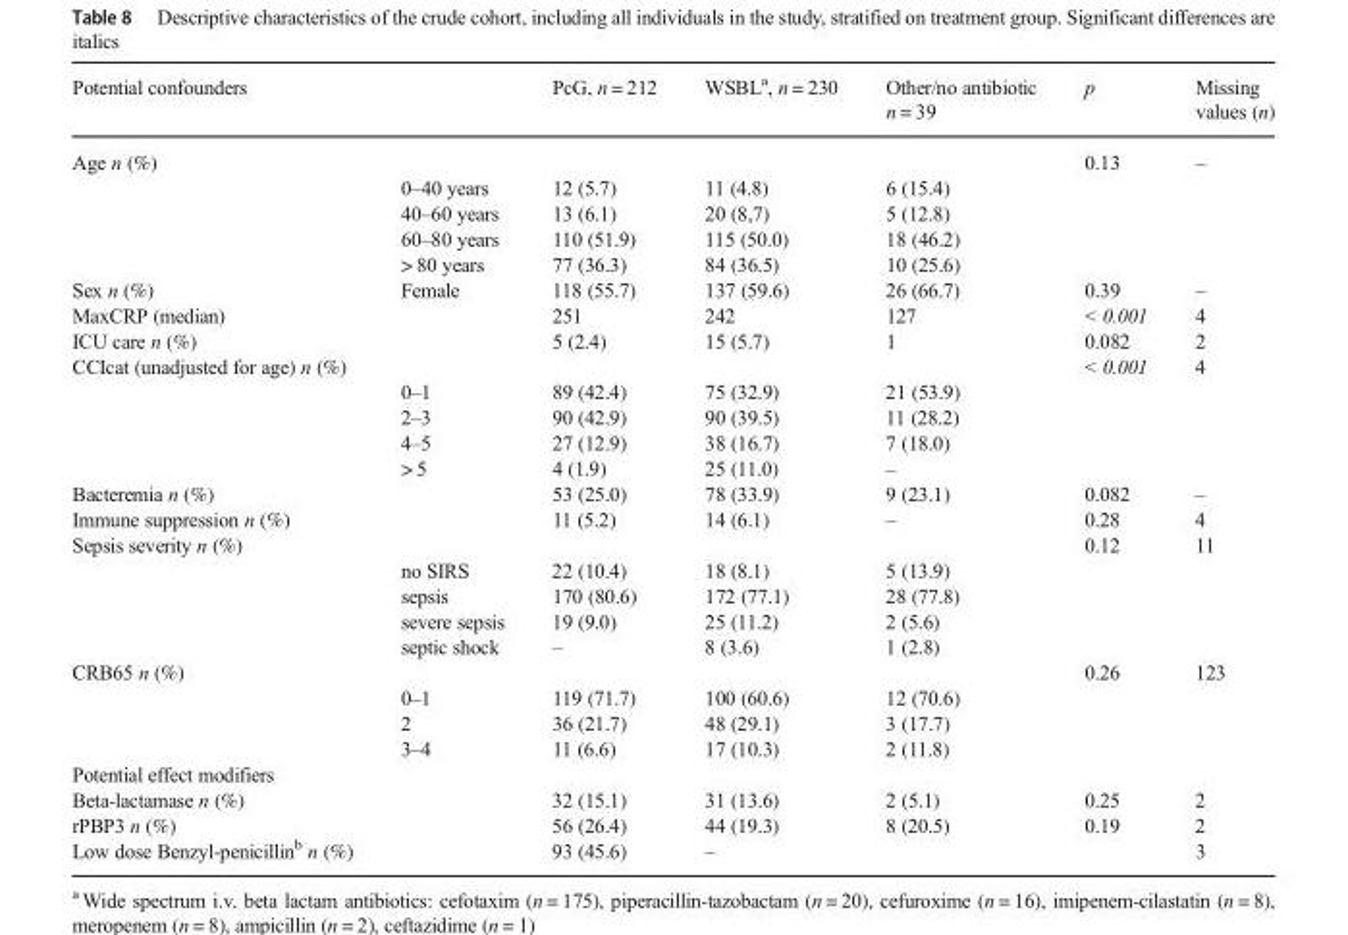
<table><thead><tr><td>Potential confounders</td><td></td><td>PcG, n = 212</td><td>WSBL<sup>a</sup>, n = 230</td><td>Other/no antibiotic n = 39</td><td>p</td><td>Missing values (n)</td></tr></thead><tbody><tr><td rowspan="5">Age n (%)</td><td></td><td></td><td></td><td></td><td>0.13</td><td>–</td></tr><tr><td>0–40 years</td><td>12 (5.7)</td><td>11 (4.8)</td><td>6 (15.4)</td><td></td><td></td></tr><tr><td>40–60 years</td><td>13 (6.1)</td><td>20 (8,7)</td><td>5 (12.8)</td><td></td><td></td></tr><tr><td>60–80 years</td><td>110 (51.9)</td><td>115 (50.0)</td><td>18 (46.2)</td><td></td><td></td></tr><tr><td>&gt; 80 years</td><td>77 (36.3)</td><td>84 (36.5)</td><td>10 (25.6)</td><td></td><td></td></tr><tr><td>Sex n (%)</td><td>Female</td><td>118 (55.7)</td><td>137 (59.6)</td><td>26 (66.7)</td><td>0.39</td><td>–</td></tr><tr><td>MaxCRP (median)</td><td></td><td>251</td><td>242</td><td>127</td><td>&lt; 0.001</td><td>4</td></tr><tr><td>ICU care n (%)</td><td></td><td>5 (2.4)</td><td>15 (5.7)</td><td>1</td><td>0.082</td><td>2</td></tr><tr><td rowspan="5">CCIcat (unadjusted for age) n (%)</td><td></td><td></td><td></td><td></td><td>&lt; 0.001</td><td>4</td></tr><tr><td>0–1</td><td>89 (42.4)</td><td>75 (32.9)</td><td>21 (53.9)</td><td></td><td></td></tr><tr><td>2–3</td><td>90 (42.9)</td><td>90 (39.5)</td><td>11 (28.2)</td><td></td><td></td></tr><tr><td>4–5</td><td>27 (12.9)</td><td>38 (16.7)</td><td>7 (18.0)</td><td></td><td></td></tr><tr><td>&gt; 5</td><td>4 (1.9)</td><td>25 (11.0)</td><td>–</td><td></td><td></td></tr><tr><td>Bacteremia n (%)</td><td></td><td>53 (25.0)</td><td>78 (33.9)</td><td>9 (23.1)</td><td>0.082</td><td>–</td></tr><tr><td>Immune suppression n (%)</td><td></td><td>11 (5.2)</td><td>14 (6.1)</td><td>–</td><td>0.28</td><td>4</td></tr><tr><td rowspan="5">Sepsis severity n (%)</td><td></td><td></td><td></td><td></td><td>0.12</td><td>11</td></tr><tr><td>no SIRS</td><td>22 (10.4)</td><td>18 (8.1)</td><td>5 (13.9)</td><td></td><td></td></tr><tr><td>sepsis</td><td>170 (80.6)</td><td>172 (77.1)</td><td>28 (77.8)</td><td></td><td></td></tr><tr><td>severe sepsis</td><td>19 (9.0)</td><td>25 (11.2)</td><td>2 (5.6)</td><td></td><td></td></tr><tr><td>septic shock</td><td>–</td><td>8 (3.6)</td><td>1 (2.8)</td><td></td><td></td></tr><tr><td rowspan="4">CRB65 n (%)</td><td></td><td></td><td></td><td></td><td>0.26</td><td>123</td></tr><tr><td>0–1</td><td>119 (71.7)</td><td>100 (60.6)</td><td>12 (70.6)</td><td></td><td></td></tr><tr><td>2</td><td>36 (21.7)</td><td>48 (29.1)</td><td>3 (17.7)</td><td></td><td></td></tr><tr><td>3–4</td><td>11 (6.6)</td><td>17 (10.3)</td><td>2 (11.8)</td><td></td><td></td></tr><tr><td colspan="7">Potential effect modifiers</td></tr><tr><td>Beta-lactamase n (%)</td><td></td><td>32 (15.1)</td><td>31 (13.6)</td><td>2 (5.1)</td><td>0.25</td><td>2</td></tr><tr><td>rPBP3 n (%)</td><td></td><td>56 (26.4)</td><td>44 (19.3)</td><td>8 (20.5)</td><td>0.19</td><td>2</td></tr><tr><td>Low dose Benzyl-penicillin<sup>b</sup> n (%)</td><td></td><td>93 (45.6)</td><td>–</td><td></td><td></td><td>3</td></tr></tbody></table>